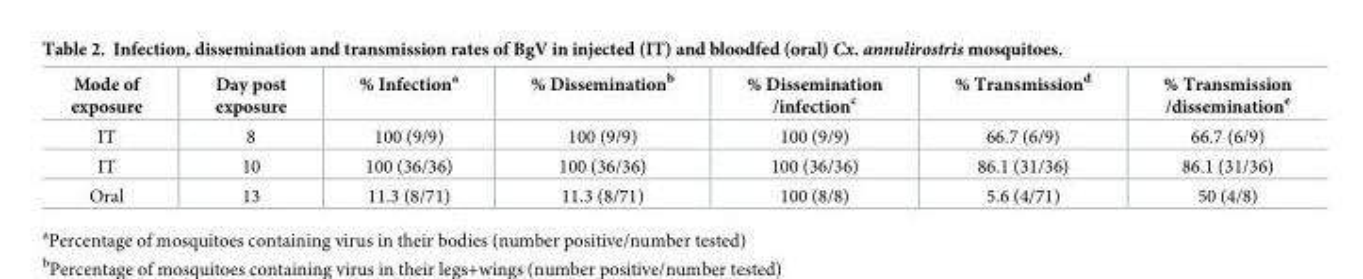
<table><thead><tr><td>Mode of exposure</td><td>Day post exposure</td><td>% Infection<sup>a</sup></td><td>% Dissemination<sup>b</sup></td><td>% Dissemination /infection<sup>c</sup></td><td>% Transmission<sup>d</sup></td><td>% Transmission /dissemination<sup>e</sup></td></tr></thead><tbody><tr><td>IT</td><td>8</td><td>100 (9/9)</td><td>100 (9/9)</td><td>100 (9/9)</td><td>66.7 (6/9)</td><td>66.7 (6/9)</td></tr><tr><td>IT</td><td>10</td><td>100 (36/36)</td><td>100 (36/36)</td><td>100 (36/36)</td><td>86.1 (31/36)</td><td>86.1 (31/36)</td></tr><tr><td>Oral</td><td>13</td><td>11.3 (8/71)</td><td>11.3 (8/71)</td><td>100 (8/8)</td><td>5.6 (4/71)</td><td>50 (4/8)</td></tr></tbody></table>